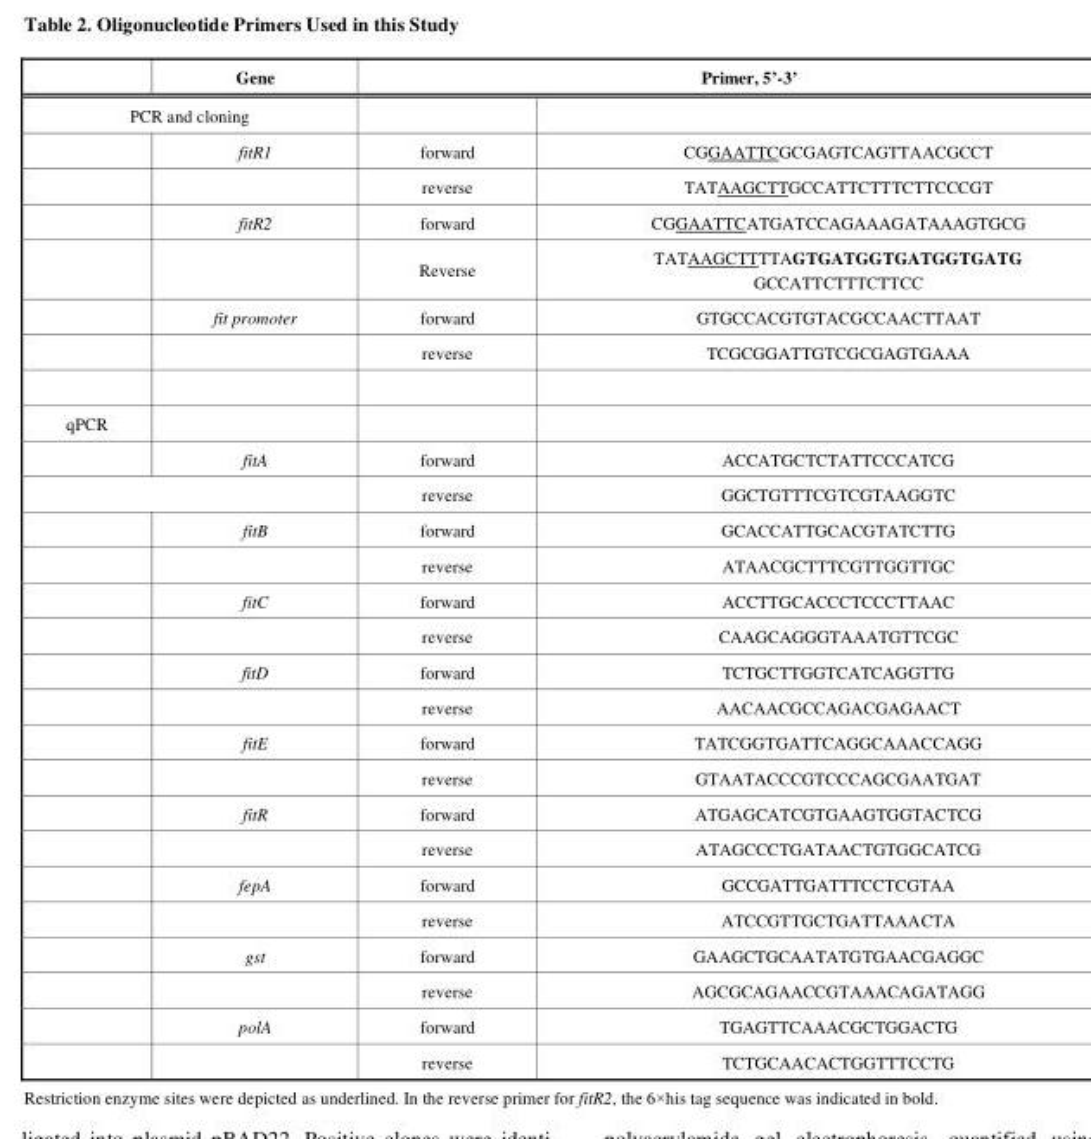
<table><thead><tr><td></td><td>Gene</td><td colspan="2">Primer, 5’-3’</td></tr><tr><td colspan="2">PCR and cloning</td><td></td><td></td></tr></thead><tbody><tr><td></td><td>fitR1</td><td>forward</td><td>CGGAATTCGCGAGTCAGTTAACGCCT</td></tr><tr><td></td><td></td><td>reverse</td><td>TATAAGCTTGCCATTCTTTCTTCCCGT</td></tr><tr><td></td><td>fitR2</td><td>forward</td><td>CGGAATTCATGATCCAGAAAGATAAAGTGCG</td></tr><tr><td></td><td></td><td>Reverse</td><td>TATAAGCTTTTAGTGATGGTGATGGTGATG GCCATTCTTTCTTCC</td></tr><tr><td></td><td>fit promoter</td><td>forward</td><td>GTGCCACGTGTACGCCAACTTAAT</td></tr><tr><td></td><td></td><td>reverse</td><td>TCGCGGATTGTCGCGAGTGAAA</td></tr><tr><td colspan="4">qPCR</td></tr><tr><td></td><td>fitA</td><td>forward</td><td>ACCATGCTCTATTCCCATCG</td></tr><tr><td colspan="2"></td><td>reverse</td><td>GGCTGTTTCGTCGTAAGGTC</td></tr><tr><td></td><td>fitB</td><td>forward</td><td>GCACCATTGCACGTATCTTG</td></tr><tr><td></td><td></td><td>reverse</td><td>ATAACGCTTTCGTTGGTTGC</td></tr><tr><td></td><td>fitC</td><td>forward</td><td>ACCTTGCACCCTCCCTTAAC</td></tr><tr><td></td><td></td><td>reverse</td><td>CAAGCAGGGTAAATGTTCGC</td></tr><tr><td></td><td>fitD</td><td>forward</td><td>TCTGCTTGGTCATCAGGTTG</td></tr><tr><td></td><td></td><td>reverse</td><td>AACAACGCCAGACGAGAACT</td></tr><tr><td></td><td>fitE</td><td>forward</td><td>TATCGGTGATTCAGGCAAACCAGG</td></tr><tr><td></td><td></td><td>reverse</td><td>GTAATACCCGTCCCAGCGAATGAT</td></tr><tr><td></td><td>fitR</td><td>forward</td><td>ATGAGCATCGTGAAGTGGTACTCG</td></tr><tr><td></td><td></td><td>reverse</td><td>ATAGCCCTGATAACTGTGGCATCG</td></tr><tr><td></td><td>fepA</td><td>forward</td><td>GCCGATTGATTTCCTCGTAA</td></tr><tr><td></td><td></td><td>reverse</td><td>ATCCGTTGCTGATTAAACTA</td></tr><tr><td></td><td>gst</td><td>forward</td><td>GAAGCTGCAATATGTGAACGAGGC</td></tr><tr><td></td><td></td><td>reverse</td><td>AGCGCAGAACCGTAAACAGATAGG</td></tr><tr><td></td><td>polA</td><td>forward</td><td>TGAGTTCAAACGCTGGACTG</td></tr><tr><td></td><td></td><td>reverse</td><td>TCTGCAACACTGGTTTCCTG</td></tr></tbody></table>